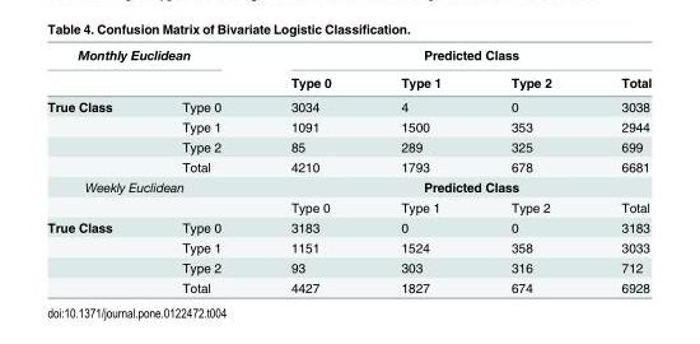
<table><thead><tr><td colspan="2">Monthly Euclidean</td><td colspan="4">Predicted Class</td></tr><tr><td></td><td></td><td>Type 0</td><td>Type 1</td><td>Type 2</td><td>Total</td></tr></thead><tbody><tr><td rowspan="4">True Class</td><td>Type 0</td><td>3034</td><td>4</td><td>0</td><td>3038</td></tr><tr><td>Type 1</td><td>1091</td><td>1500</td><td>353</td><td>2944</td></tr><tr><td>Type 2</td><td>85</td><td>289</td><td>325</td><td>699</td></tr><tr><td>Total</td><td>4210</td><td>1793</td><td>678</td><td>6681</td></tr><tr><td colspan="2">Weekly Euclidean</td><td colspan="4">Predicted Class</td></tr><tr><td></td><td></td><td>Type 0</td><td>Type 1</td><td>Type 2</td><td>Total</td></tr><tr><td rowspan="4">True Class</td><td>Type 0</td><td>3183</td><td>0</td><td>0</td><td>3183</td></tr><tr><td>Type 1</td><td>1151</td><td>1524</td><td>358</td><td>3033</td></tr><tr><td>Type 2</td><td>93</td><td>303</td><td>316</td><td>712</td></tr><tr><td>Total</td><td>4427</td><td>1827</td><td>674</td><td>6928</td></tr></tbody></table>